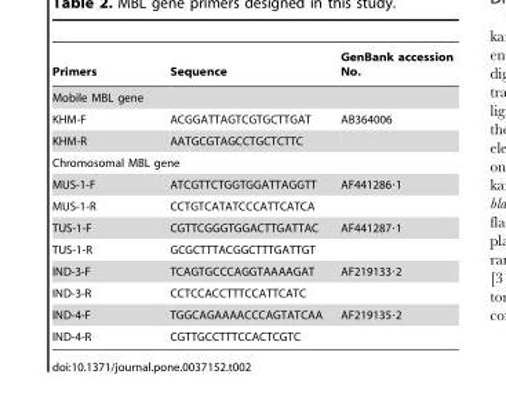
<table><thead><tr><td>Primers</td><td>Sequence</td><td>GenBank accession No.</td></tr></thead><tbody><tr><td colspan="3">Mobile MBL gene</td></tr><tr><td>KHM-F</td><td>ACGGATTAGTCGTGCTTGAT</td><td>AB364006</td></tr><tr><td>KHM-R</td><td>AATGCGTAGCCTGCTCTTC</td><td></td></tr><tr><td colspan="3">Chromosomal MBL gene</td></tr><tr><td>MUS-1-F</td><td>ATCGTTCTGGTGGATTAGGTT</td><td>AF441286·1</td></tr><tr><td>MUS-1-R</td><td>CCTGTCATATCCCATTCATCA</td><td></td></tr><tr><td>TUS-1-F</td><td>CGTTCGGGTGGACTTGATTAC</td><td>AF441287·1</td></tr><tr><td>TUS-1-R</td><td>GCGCTTTACGGCTTTGATTGT</td><td></td></tr><tr><td>IND-3-F</td><td>TCAGTGCCCAGGTAAAAGAT</td><td>AF219133·2</td></tr><tr><td>IND-3-R</td><td>CCTCCACCTTTCCATTCATC</td><td></td></tr><tr><td>IND-4-F</td><td>TGGCAGAAAACCCAGTATCAA</td><td>AF219135·2</td></tr><tr><td>IND-4-R</td><td>CGTTGCCTTTCCACTCGTC</td><td></td></tr></tbody></table>